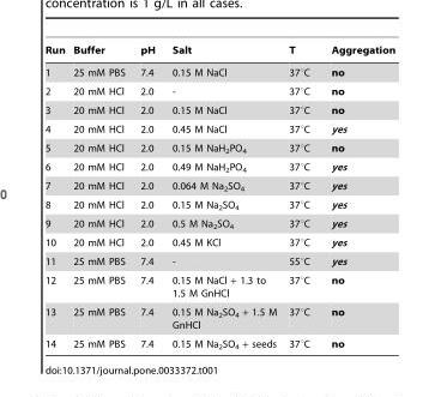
<table><thead><tr><td>Run</td><td>Buffer</td><td>pH</td><td>Salt</td><td>T</td><td>Aggregation</td></tr></thead><tbody><tr><td>1</td><td>25 mM PBS</td><td>7.4</td><td>0.15 M NaCl</td><td>37°C</td><td>no</td></tr><tr><td>2</td><td>20 mM HCl</td><td>2.0</td><td>-</td><td>37°C</td><td>no</td></tr><tr><td>3</td><td>20 mM HCl</td><td>2.0</td><td>0.15 M NaCl</td><td>37°C</td><td>no</td></tr><tr><td>4</td><td>20 mM HCl</td><td>2.0</td><td>0.45 M NaCl</td><td>37°C</td><td>yes</td></tr><tr><td>5</td><td>20 mM HCl</td><td>2.0</td><td>0.15 M NaH<sub>2</sub>PO<sub>4</sub></td><td>37°C</td><td>no</td></tr><tr><td>6</td><td>20 mM HCl</td><td>2.0</td><td>0.49 M NaH<sub>2</sub>PO<sub>4</sub></td><td>37°C</td><td>yes</td></tr><tr><td>7</td><td>20 mM HCl</td><td>2.0</td><td>0.064 M Na<sub>2</sub>SO<sub>4</sub></td><td>37°C</td><td>yes</td></tr><tr><td>8</td><td>20 mM HCl</td><td>2.0</td><td>0.15 M Na<sub>2</sub>SO<sub>4</sub></td><td>37°C</td><td>yes</td></tr><tr><td>9</td><td>20 mM HCl</td><td>2.0</td><td>0.5 M Na<sub>2</sub>SO<sub>4</sub></td><td>37°C</td><td>yes</td></tr><tr><td>10</td><td>20 mM HCl</td><td>2.0</td><td>0.45 M KCl</td><td>37°C</td><td>yes</td></tr><tr><td>11</td><td>25 mM PBS</td><td>7.4</td><td>-</td><td>55°C</td><td>yes</td></tr><tr><td>12</td><td>25 mM PBS</td><td>7.4</td><td>0.15 M NaCl + 1.3 to 1.5 M GnHCl</td><td>37°C</td><td>no</td></tr><tr><td>13</td><td>25 mM PBS</td><td>7.4</td><td>0.15 M Na<sub>2</sub>SO<sub>4</sub> + 1.5 M GnHCl</td><td>37°C</td><td>no</td></tr><tr><td>14</td><td>25 mM PBS</td><td>7.4</td><td>0.15 M Na<sub>2</sub>SO<sub>4</sub> + seeds</td><td>37°C</td><td>no</td></tr></tbody></table>